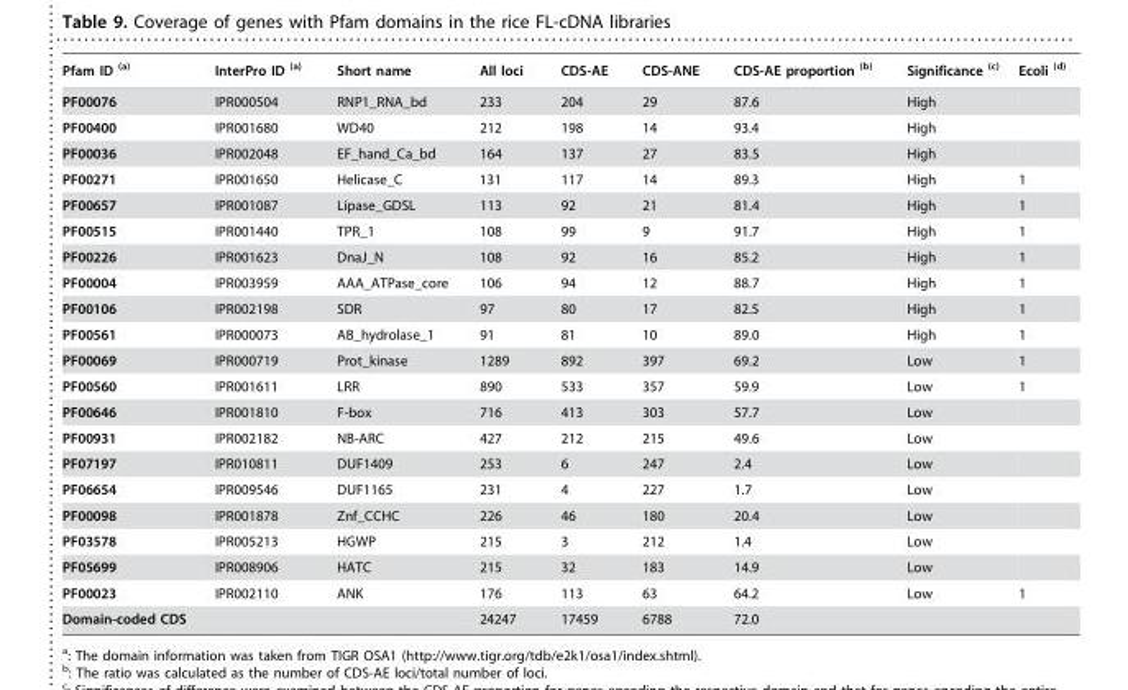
<table><thead><tr><td>Pfam ID (a)</td><td>InterPro ID (a)</td><td>Short name</td><td>All loci</td><td>CDS-AE</td><td>CDS-ANE</td><td>CDS-AE proportion (b)</td><td>Significance (c)</td><td>Ecoli (d)</td></tr></thead><tbody><tr><td>PF00076</td><td>IPR000504</td><td>RNP1_RNA_bd</td><td>233</td><td>204</td><td>29</td><td>87.6</td><td>High</td><td></td></tr><tr><td>PF00400</td><td>IPR001680</td><td>WD40</td><td>212</td><td>198</td><td>14</td><td>93.4</td><td>High</td><td></td></tr><tr><td>PF00036</td><td>IPR002048</td><td>EF_hand_Ca_bd</td><td>164</td><td>137</td><td>27</td><td>83.5</td><td>High</td><td></td></tr><tr><td>PF00271</td><td>IPR001650</td><td>Helicase_C</td><td>131</td><td>117</td><td>14</td><td>89.3</td><td>High</td><td>1</td></tr><tr><td>PF00657</td><td>IPR001087</td><td>Lipase_GDSL</td><td>113</td><td>92</td><td>21</td><td>81.4</td><td>High</td><td>1</td></tr><tr><td>PF00515</td><td>IPR001440</td><td>TPR_1</td><td>108</td><td>99</td><td>9</td><td>91.7</td><td>High</td><td>1</td></tr><tr><td>PF00226</td><td>IPR001623</td><td>DnaJ_N</td><td>108</td><td>92</td><td>16</td><td>85.2</td><td>High</td><td>1</td></tr><tr><td>PF00004</td><td>IPR003959</td><td>AAA_ATPase_core</td><td>106</td><td>94</td><td>12</td><td>88.7</td><td>High</td><td>1</td></tr><tr><td>PF00106</td><td>IPR002198</td><td>SDR</td><td>97</td><td>80</td><td>17</td><td>82.5</td><td>High</td><td>1</td></tr><tr><td>PF00561</td><td>IPR000073</td><td>AB_hydrolase_1</td><td>91</td><td>81</td><td>10</td><td>89.0</td><td>High</td><td>1</td></tr><tr><td>PF00069</td><td>IPR000719</td><td>Prot_kinase</td><td>1289</td><td>892</td><td>397</td><td>69.2</td><td>Low</td><td>1</td></tr><tr><td>PF00560</td><td>IPR001611</td><td>LRR</td><td>890</td><td>533</td><td>357</td><td>59.9</td><td>Low</td><td>1</td></tr><tr><td>PF00646</td><td>IPR001810</td><td>F-box</td><td>716</td><td>413</td><td>303</td><td>57.7</td><td>Low</td><td></td></tr><tr><td>PF00931</td><td>IPR002182</td><td>NB-ARC</td><td>427</td><td>212</td><td>215</td><td>49.6</td><td>Low</td><td></td></tr><tr><td>PF07197</td><td>IPR010811</td><td>DUF1409</td><td>253</td><td>6</td><td>247</td><td>2.4</td><td>Low</td><td></td></tr><tr><td>PF06654</td><td>IPR009546</td><td>DUF1165</td><td>231</td><td>4</td><td>227</td><td>1.7</td><td>Low</td><td></td></tr><tr><td>PF00098</td><td>IPR001878</td><td>Znf_CCHC</td><td>226</td><td>46</td><td>180</td><td>20.4</td><td>Low</td><td></td></tr><tr><td>PF03578</td><td>IPR005213</td><td>HGWP</td><td>215</td><td>3</td><td>212</td><td>1.4</td><td>Low</td><td></td></tr><tr><td>PF05699</td><td>IPR008906</td><td>HATC</td><td>215</td><td>32</td><td>183</td><td>14.9</td><td>Low</td><td></td></tr><tr><td>PF00023</td><td>IPR002110</td><td>ANK</td><td>176</td><td>113</td><td>63</td><td>64.2</td><td>Low</td><td>1</td></tr><tr><td colspan="3">Domain-coded CDS</td><td>24247</td><td>17459</td><td>6788</td><td>72.0</td><td></td><td></td></tr></tbody></table>